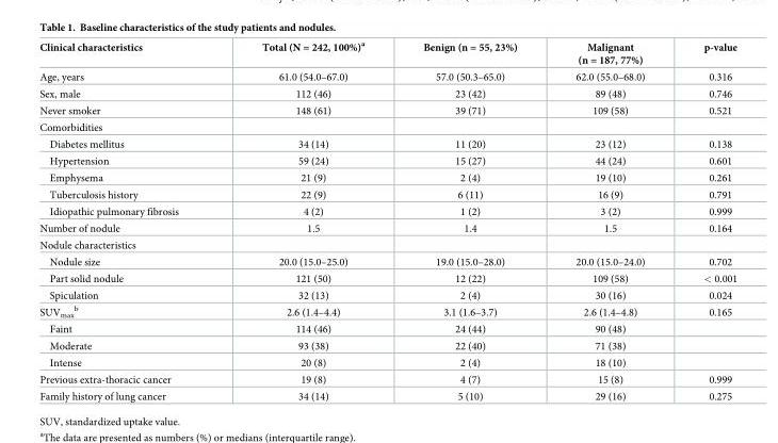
<table><thead><tr><td>Clinical characteristics</td><td>Total (N = 242, 100%)<sup>a</sup></td><td>Benign (n = 55, 23%)</td><td>Malignant (n = 187, 77%)</td><td>p-value</td></tr></thead><tbody><tr><td>Age, years</td><td>61.0 (54.0–67.0)</td><td>57.0 (50.3–65.0)</td><td>62.0 (55.0–68.0)</td><td>0.316</td></tr><tr><td>Sex, male</td><td>112 (46)</td><td>23 (42)</td><td>89 (48)</td><td>0.746</td></tr><tr><td>Never smoker</td><td>148 (61)</td><td>39 (71)</td><td>109 (58)</td><td>0.521</td></tr><tr><td colspan="5">Comorbidities</td></tr><tr><td>Diabetes mellitus</td><td>34 (14)</td><td>11 (20)</td><td>23 (12)</td><td>0.138</td></tr><tr><td>Hypertension</td><td>59 (24)</td><td>15 (27)</td><td>44 (24)</td><td>0.601</td></tr><tr><td>Emphysema</td><td>21 (9)</td><td>2 (4)</td><td>19 (10)</td><td>0.261</td></tr><tr><td>Tuberculosis history</td><td>22 (9)</td><td>6 (11)</td><td>16 (9)</td><td>0.791</td></tr><tr><td>Idiopathic pulmonary fibrosis</td><td>4 (2)</td><td>1 (2)</td><td>3 (2)</td><td>0.999</td></tr><tr><td>Number of nodule</td><td>1.5</td><td>1.4</td><td>1.5</td><td>0.164</td></tr><tr><td colspan="5">Nodule characteristics</td></tr><tr><td>Nodule size</td><td>20.0 (15.0–25.0)</td><td>19.0 (15.0–28.0)</td><td>20.0 (15.0–24.0)</td><td>0.702</td></tr><tr><td>Part solid nodule</td><td>121 (50)</td><td>12 (22)</td><td>109 (58)</td><td>&lt; 0.001</td></tr><tr><td>Spiculation</td><td>32 (13)</td><td>2 (4)</td><td>30 (16)</td><td>0.024</td></tr><tr><td>SUV<sub>max</sub> <sup>b</sup></td><td>2.6 (1.4–4.4)</td><td>3.1 (1.6–3.7)</td><td>2.6 (1.4–4.8)</td><td>0.165</td></tr><tr><td>Faint</td><td>114 (46)</td><td>24 (44)</td><td>90 (48)</td><td></td></tr><tr><td>Moderate</td><td>93 (38)</td><td>22 (40)</td><td>71 (38)</td><td></td></tr><tr><td>Intense</td><td>20 (8)</td><td>2 (4)</td><td>18 (10)</td><td></td></tr><tr><td>Previous extra-thoracic cancer</td><td>19 (8)</td><td>4 (7)</td><td>15 (8)</td><td>0.999</td></tr><tr><td>Family history of lung cancer</td><td>34 (14)</td><td>5 (10)</td><td>29 (16)</td><td>0.275</td></tr></tbody></table>